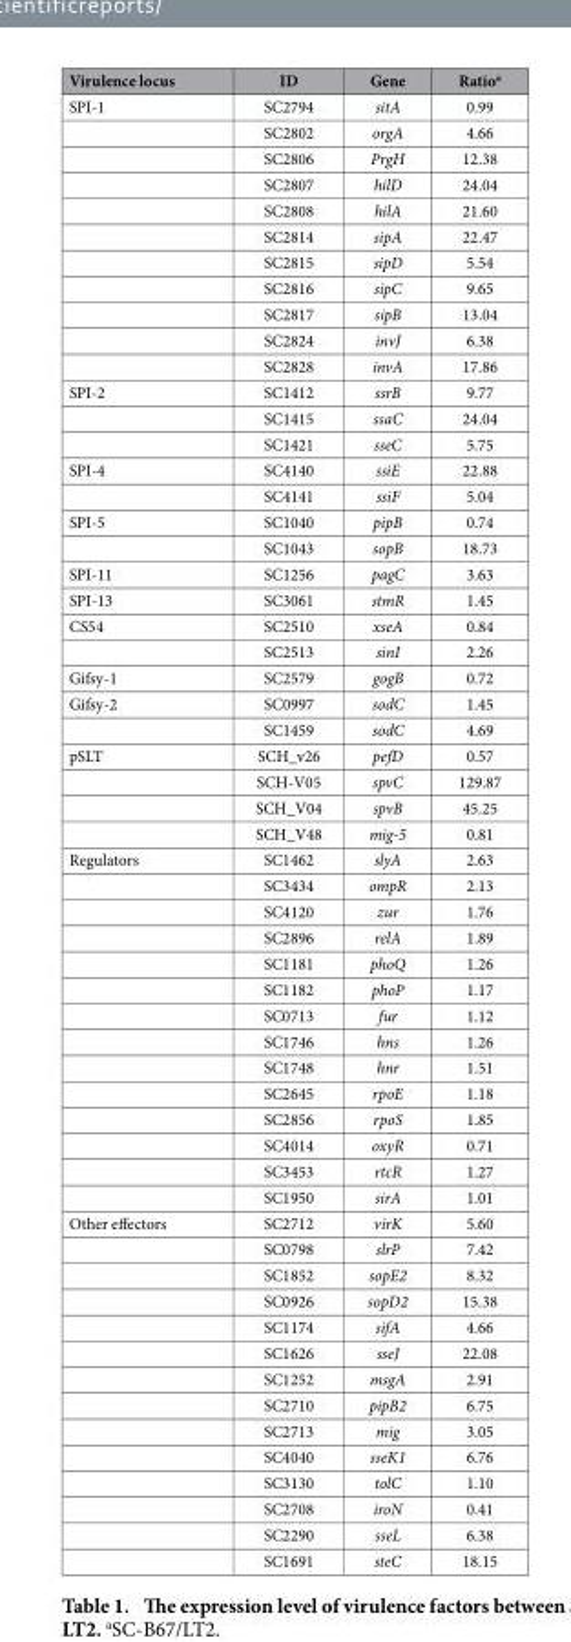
<table><thead><tr><td>Virulence locus</td><td>ID</td><td>Gene</td><td>Ratio<sup>a</sup></td></tr></thead><tbody><tr><td rowspan="11">SPI-1</td><td>SC2794</td><td>sitA</td><td>0.99</td></tr><tr><td>SC2802</td><td>orgA</td><td>4.66</td></tr><tr><td>SC2806</td><td>PrgH</td><td>12.38</td></tr><tr><td>SC2807</td><td>hilD</td><td>24.04</td></tr><tr><td>SC2808</td><td>hilA</td><td>21.60</td></tr><tr><td>SC2814</td><td>sipA</td><td>22.47</td></tr><tr><td>SC2815</td><td>sipD</td><td>5.54</td></tr><tr><td>SC2816</td><td>sipC</td><td>9.65</td></tr><tr><td>SC2817</td><td>sipB</td><td>13.04</td></tr><tr><td>SC2824</td><td>invJ</td><td>6.38</td></tr><tr><td>SC2828</td><td>invA</td><td>17.86</td></tr><tr><td rowspan="3">SPI-2</td><td>SC1412</td><td>ssrB</td><td>9.77</td></tr><tr><td>SC1415</td><td>ssaC</td><td>24.04</td></tr><tr><td>SC1421</td><td>sseC</td><td>5.75</td></tr><tr><td rowspan="2">SPI-4</td><td>SC4140</td><td>ssiE</td><td>22.88</td></tr><tr><td>SC4141</td><td>ssiF</td><td>5.04</td></tr><tr><td rowspan="2">SPI-5</td><td>SC1040</td><td>pipB</td><td>0.74</td></tr><tr><td>SC1043</td><td>sopB</td><td>18.73</td></tr><tr><td>SPI-11</td><td>SC1256</td><td>pagC</td><td>3.63</td></tr><tr><td>SPI-13</td><td>SC3061</td><td>stmR</td><td>1.45</td></tr><tr><td rowspan="2">CS54</td><td>SC2510</td><td>xseA</td><td>0.84</td></tr><tr><td>SC2513</td><td>sinI</td><td>2.26</td></tr><tr><td>Gifsy-1</td><td>SC2579</td><td>gogB</td><td>0.72</td></tr><tr><td rowspan="2">Gifsy-2</td><td>SC0997</td><td>sodC</td><td>1.45</td></tr><tr><td>SC1459</td><td>sodC</td><td>4.69</td></tr><tr><td rowspan="4">pSLT</td><td>SCH_v26</td><td>pefD</td><td>0.57</td></tr><tr><td>SCH-V05</td><td>spvC</td><td>129.87</td></tr><tr><td>SCH_V04</td><td>spvB</td><td>45.25</td></tr><tr><td>SCH_V48</td><td>mig-5</td><td>0.81</td></tr><tr><td rowspan="14">Regulators</td><td>SC1462</td><td>slyA</td><td>2.63</td></tr><tr><td>SC3434</td><td>ompR</td><td>2.13</td></tr><tr><td>SC4120</td><td>zur</td><td>1.76</td></tr><tr><td>SC2896</td><td>relA</td><td>1.89</td></tr><tr><td>SC1181</td><td>phoQ</td><td>1.26</td></tr><tr><td>SC1182</td><td>phoP</td><td>1.17</td></tr><tr><td>SC0713</td><td>fur</td><td>1.12</td></tr><tr><td>SC1746</td><td>hns</td><td>1.26</td></tr><tr><td>SC1748</td><td>hnr</td><td>1.51</td></tr><tr><td>SC2645</td><td>rpoE</td><td>1.18</td></tr><tr><td>SC2856</td><td>rpoS</td><td>1.85</td></tr><tr><td>SC4014</td><td>oxyR</td><td>0.71</td></tr><tr><td>SC3453</td><td>rtcR</td><td>1.27</td></tr><tr><td>SC1950</td><td>sirA</td><td>1.01</td></tr><tr><td rowspan="14">Other effectors</td><td>SC2712</td><td>virK</td><td>5.60</td></tr><tr><td>SC0798</td><td>slrP</td><td>7.42</td></tr><tr><td>SC1852</td><td>sopE2</td><td>8.32</td></tr><tr><td>SC0926</td><td>sopD2</td><td>15.38</td></tr><tr><td>SC1174</td><td>sifA</td><td>4.66</td></tr><tr><td>SC1626</td><td>sseJ</td><td>22.08</td></tr><tr><td>SC1252</td><td>msgA</td><td>2.91</td></tr><tr><td>SC2710</td><td>pipB2</td><td>6.75</td></tr><tr><td>SC2713</td><td>mig</td><td>3.05</td></tr><tr><td>SC4040</td><td>sseK1</td><td>6.76</td></tr><tr><td>SC3130</td><td>tolC</td><td>1.10</td></tr><tr><td>SC2708</td><td>iroN</td><td>0.41</td></tr><tr><td>SC2290</td><td>sseL</td><td>6.38</td></tr><tr><td>SC1691</td><td>steC</td><td>18.15</td></tr></tbody></table>